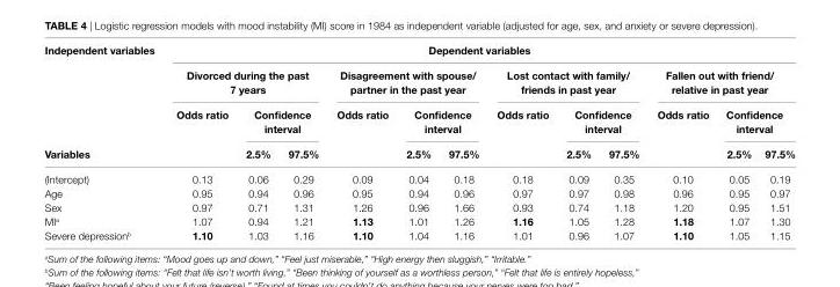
<table><thead><tr><td rowspan="4">independent variables Variables</td><td colspan="12">Dependent variables</td></tr><tr><td colspan="3">Divorced during the past 7 years</td><td colspan="3">Disagreement with spouse/ partner in the past year</td><td colspan="3">lost contact with family/ friends in past year</td><td colspan="3">Fallen out with friend/ relative in past year</td></tr><tr><td rowspan="2">Odds ratio</td><td colspan="2">confidence interval</td><td rowspan="2">Odds ratio</td><td colspan="2">confidence interval</td><td rowspan="2">Odds ratio</td><td colspan="2">confidence interval</td><td rowspan="2">Odds ratio</td><td colspan="2">confidence interval</td></tr><tr><td>2.5%</td><td>97.5%</td><td>2.5%</td><td>97.5%</td><td>2.5%</td><td>97.5%</td><td>2.5%</td><td>97.5%</td></tr></thead><tbody><tr><td>(Intercept)</td><td>0.13</td><td>0.06</td><td>0.29</td><td>0.09</td><td>0.04</td><td>0.18</td><td>0.18</td><td>0.09</td><td>0.35</td><td>0.10</td><td>0.05</td><td>0.19</td></tr><tr><td>Age</td><td>0.95</td><td>0.94</td><td>0.96</td><td>0.95</td><td>0.94</td><td>0.96</td><td>0.97</td><td>0.97</td><td>0.98</td><td>0.96</td><td>0.95</td><td>0.97</td></tr><tr><td>Sex</td><td>0.97</td><td>0.71</td><td>1.31</td><td>1.26</td><td>0.96</td><td>1.66</td><td>0.93</td><td>0.74</td><td>1.18</td><td>1.20</td><td>0.95</td><td>1.51</td></tr><tr><td>MI<sup>a</sup></td><td>1.07</td><td>0.94</td><td>1.21</td><td>1.13</td><td>1.01</td><td>1.26</td><td>1.16</td><td>1.05</td><td>1.28</td><td>1.18</td><td>1.07</td><td>1.30</td></tr><tr><td>Severe depression<sup>b</sup></td><td>1.10</td><td>1.03</td><td>1.16</td><td>1.10</td><td>1.04</td><td>1.16</td><td>1.01</td><td>0.96</td><td>1.07</td><td>1.10</td><td>1.05</td><td>1.15</td></tr></tbody></table>